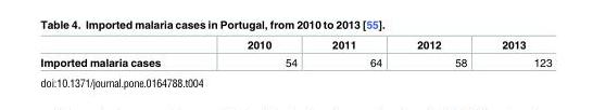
<table><thead><tr><td></td><td>2010</td><td>2011</td><td>2012</td><td>2013</td></tr></thead><tbody><tr><td>Imported malaria cases</td><td>54</td><td>64</td><td>58</td><td>123</td></tr></tbody></table>